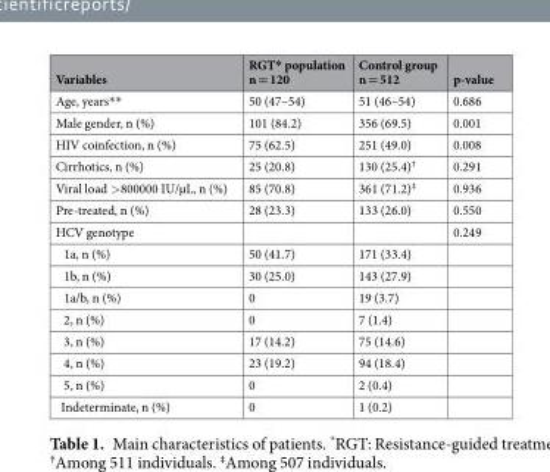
<table><thead><tr><td>Variables</td><td>RGT* population n = 120</td><td>Control group n = 512</td><td>p-value</td></tr></thead><tbody><tr><td>Age, years**</td><td>50 (47–54)</td><td>51 (46–54)</td><td>0.686</td></tr><tr><td>Male gender, n (%)</td><td>101 (84.2)</td><td>356 (69.5)</td><td>0.001</td></tr><tr><td>HIV coinfection, n (%)</td><td>75 (62.5)</td><td>251 (49.0)</td><td>0.008</td></tr><tr><td>Cirrhotics, n (%)</td><td>25 (20.8)</td><td>130 (25.4)<sup>†</sup></td><td>0.291</td></tr><tr><td>Viral load &gt;800000 IU/µL, n (%)</td><td>85 (70.8)</td><td>361 (71.2)<sup>‡</sup></td><td>0.936</td></tr><tr><td>Pre-treated, n (%)</td><td>28 (23.3)</td><td>133 (26.0)</td><td>0.550</td></tr><tr><td>HCV genotype</td><td></td><td></td><td>0.249</td></tr><tr><td>1a, n (%)</td><td>50 (41.7)</td><td>171 (33.4)</td><td></td></tr><tr><td>1b, n (%)</td><td>30 (25.0)</td><td>143 (27.9)</td><td></td></tr><tr><td>1a/b, n (%)</td><td>0</td><td>19 (3.7)</td><td></td></tr><tr><td>2, n (%)</td><td>0</td><td>7 (1.4)</td><td></td></tr><tr><td>3, n (%)</td><td>17 (14.2)</td><td>75 (14.6)</td><td></td></tr><tr><td>4, n (%)</td><td>23 (19.2)</td><td>94 (18.4)</td><td></td></tr><tr><td>5, n (%)</td><td>0</td><td>2 (0.4)</td><td></td></tr><tr><td>Indeterminate, n (%)</td><td>0</td><td>1 (0.2)</td><td></td></tr></tbody></table>